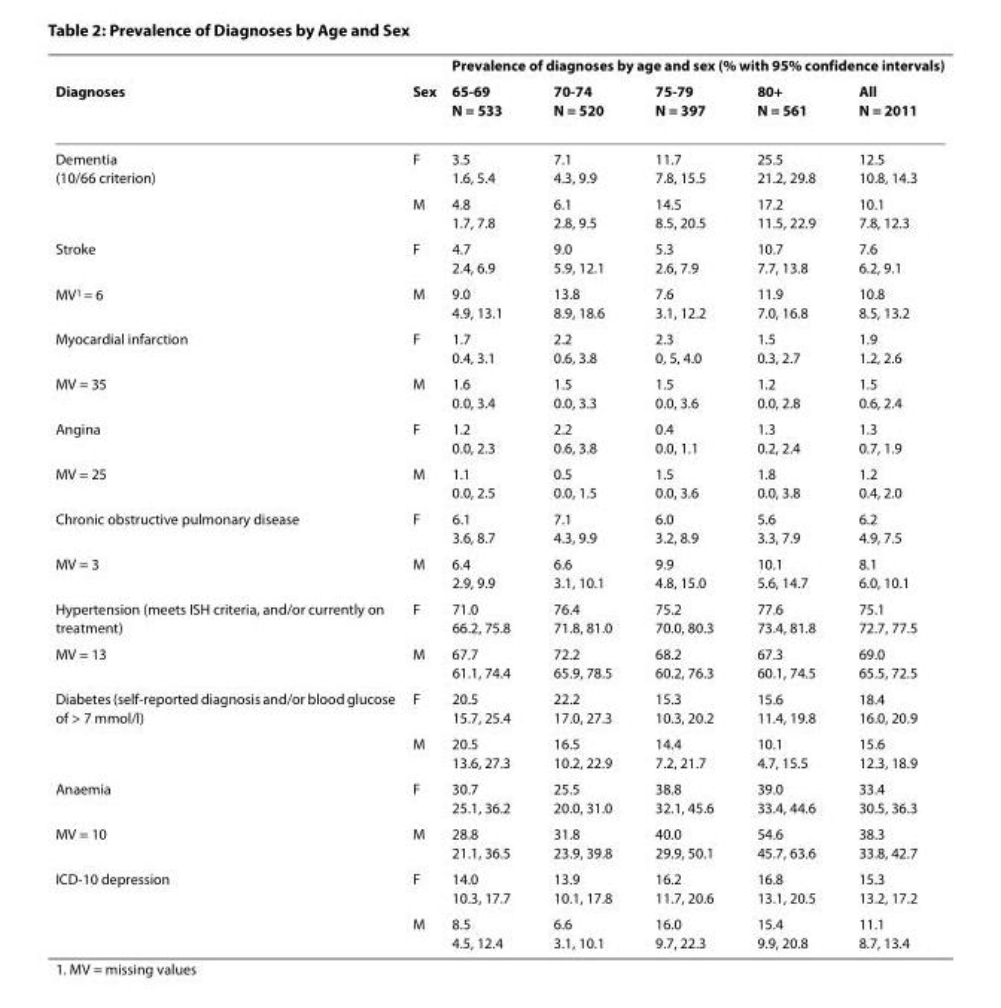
<table><thead><tr><td rowspan="2">Diagnoses</td><td rowspan="2">Sex</td><td colspan="5">Prevalence of diagnoses by age and sex (% with 95% confidence intervals)</td></tr><tr><td>65-69 N = 533</td><td>70-74 N = 520</td><td>75-79 N = 397</td><td>80+ N = 561</td><td>All N = 2011</td></tr></thead><tbody><tr><td rowspan="2">Dementia (10/66 criterion)</td><td>F</td><td>3.5 1.6, 5.4</td><td>7.1 4.3, 9.9</td><td>11.7 7.8, 15.5</td><td>25.5 21.2, 29.8</td><td>12.5 10.8, 14.3</td></tr><tr><td>M</td><td>4.8 1.7, 7.8</td><td>6.1 2.8, 9.5</td><td>14.5 8.5, 20.5</td><td>17.2 11.5, 22.9</td><td>10.1 7.8, 12.3</td></tr><tr><td>Stroke</td><td>F</td><td>4.7 2.4, 6.9</td><td>9.0 5.9, 12.1</td><td>5.3 2.6, 7.9</td><td>10.7 7.7, 13.8</td><td>7.6 6.2, 9.1</td></tr><tr><td>MV<sup>1</sup> = 6</td><td>M</td><td>9.0 4.9, 13.1</td><td>13.8 8.9, 18.6</td><td>7.6 3.1, 12.2</td><td>11.9 7.0, 16.8</td><td>10.8 8.5, 13.2</td></tr><tr><td>Myocardial infarction</td><td>F</td><td>1.7 0.4, 3.1</td><td>2.2 0.6, 3.8</td><td>2.3 0, 5, 4.0</td><td>1.5 0.3, 2.7</td><td>1.9 1.2, 2.6</td></tr><tr><td>MV = 35</td><td>M</td><td>1.6 0.0, 3.4</td><td>1.5 0.0, 3.3</td><td>1.5 0.0, 3.6</td><td>1.2 0.0, 2.8</td><td>1.5 0.6, 2.4</td></tr><tr><td>Angina</td><td>F</td><td>1.2 0.0, 2.3</td><td>2.2 0.6, 3.8</td><td>0.4 0.0, 1.1</td><td>1.3 0.2, 2.4</td><td>1.3 0.7, 1.9</td></tr><tr><td>MV = 25</td><td>M</td><td>1.1 0.0, 2.5</td><td>0.5 0.0, 1.5</td><td>1.5 0.0, 3.6</td><td>1.8 0.0, 3.8</td><td>1.2 0.4, 2.0</td></tr><tr><td>Chronic obstructive pulmonary disease</td><td>F</td><td>6.1 3.6, 8.7</td><td>7.1 4.3, 9.9</td><td>6.0 3.2, 8.9</td><td>5.6 3.3, 7.9</td><td>6.2 4.9, 7.5</td></tr><tr><td>MV = 3</td><td>M</td><td>6.4 2.9, 9.9</td><td>6.6 3.1, 10.1</td><td>9.9 4.8, 15.0</td><td>10.1 5.6, 14.7</td><td>8.1 6.0, 10.1</td></tr><tr><td>Hypertension (meets ISH criteria, and/or currently on treatment)</td><td>F</td><td>71.0 66.2, 75.8</td><td>76.4 71.8, 81.0</td><td>75.2 70.0, 80.3</td><td>77.6 73.4, 81.8</td><td>75.1 72.7, 77.5</td></tr><tr><td>MV = 13</td><td>M</td><td>67.7 61.1, 74.4</td><td>72.2 65.9, 78.5</td><td>68.2 60.2, 76.3</td><td>67.3 60.1, 74.5</td><td>69.0 65.5, 72.5</td></tr><tr><td rowspan="2">Diabetes (self-reported diagnosis and/or blood glucose of &gt; 7 mmol/l)</td><td>F</td><td>20.5 15.7, 25.4</td><td>22.2 17.0, 27.3</td><td>15.3 10.3, 20.2</td><td>15.6 11.4, 19.8</td><td>18.4 16.0, 20.9</td></tr><tr><td>M</td><td>20.5 13.6, 27.3</td><td>16.5 10.2, 22.9</td><td>14.4 7.2, 21.7</td><td>10.1 4.7, 15.5</td><td>15.6 12.3, 18.9</td></tr><tr><td>Anaemia</td><td>F</td><td>30.7 25.1, 36.2</td><td>25.5 20.0, 31.0</td><td>38.8 32.1, 45.6</td><td>39.0 33.4, 44.6</td><td>33.4 30.5, 36.3</td></tr><tr><td>MV = 10</td><td>M</td><td>28.8 21.1, 36.5</td><td>31.8 23.9, 39.8</td><td>40.0 29.9, 50.1</td><td>54.6 45.7, 63.6</td><td>38.3 33.8, 42.7</td></tr><tr><td rowspan="2">ICD-10 depression</td><td>F</td><td>14.0 10.3, 17.7</td><td>13.9 10.1, 17.8</td><td>16.2 11.7, 20.6</td><td>16.8 13.1, 20.5</td><td>15.3 13.2, 17.2</td></tr><tr><td>M</td><td>8.5 4.5, 12.4</td><td>6.6 3.1, 10.1</td><td>16.0 9.7, 22.3</td><td>15.4 9.9, 20.8</td><td>11.1 8.7, 13.4</td></tr></tbody></table>